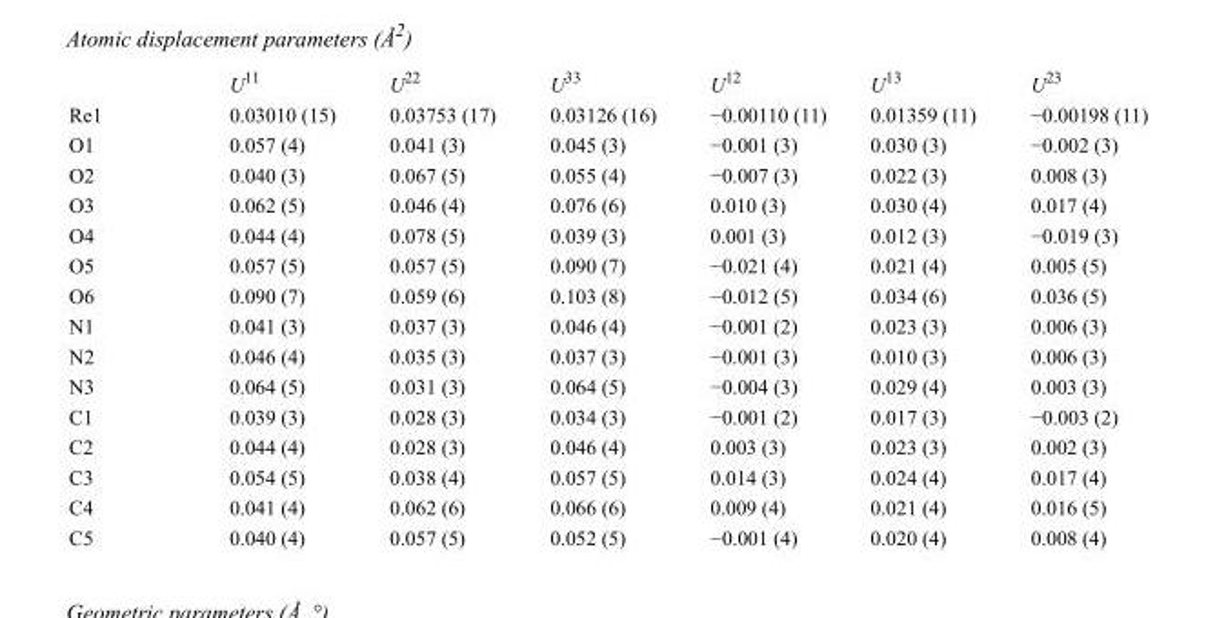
<table><thead><tr><td></td><td>U<sup>11</sup></td><td>U<sup>22</sup></td><td>U<sup>33</sup></td><td>U<sup>12</sup></td><td>U<sup>13</sup></td><td>U<sup>23</sup></td></tr></thead><tbody><tr><td>Re1</td><td>0.03010 (15)</td><td>0.03753 (17)</td><td>0.03126 (16)</td><td>−0.00110 (11)</td><td>0.01359 (11)</td><td>−0.00198 (11)</td></tr><tr><td>O1</td><td>0.057 (4)</td><td>0.041 (3)</td><td>0.045 (3)</td><td>−0.001 (3)</td><td>0.030 (3)</td><td>−0.002 (3)</td></tr><tr><td>O2</td><td>0.040 (3)</td><td>0.067 (5)</td><td>0.055 (4)</td><td>−0.007 (3)</td><td>0.022 (3)</td><td>0.008 (3)</td></tr><tr><td>O3</td><td>0.062 (5)</td><td>0.046 (4)</td><td>0.076 (6)</td><td>0.010 (3)</td><td>0.030 (4)</td><td>0.017 (4)</td></tr><tr><td>O4</td><td>0.044 (4)</td><td>0.078 (5)</td><td>0.039 (3)</td><td>0.001 (3)</td><td>0.012 (3)</td><td>−0.019 (3)</td></tr><tr><td>O5</td><td>0.057 (5)</td><td>0.057 (5)</td><td>0.090 (7)</td><td>−0.021 (4)</td><td>0.021 (4)</td><td>0.005 (5)</td></tr><tr><td>O6</td><td>0.090 (7)</td><td>0.059 (6)</td><td>0.103 (8)</td><td>−0.012 (5)</td><td>0.034 (6)</td><td>0.036 (5)</td></tr><tr><td>N1</td><td>0.041 (3)</td><td>0.037 (3)</td><td>0.046 (4)</td><td>−0.001 (2)</td><td>0.023 (3)</td><td>0.006 (3)</td></tr><tr><td>N2</td><td>0.046 (4)</td><td>0.035 (3)</td><td>0.037 (3)</td><td>−0.001 (3)</td><td>0.010 (3)</td><td>0.006 (3)</td></tr><tr><td>N3</td><td>0.064 (5)</td><td>0.031 (3)</td><td>0.064 (5)</td><td>−0.004 (3)</td><td>0.029 (4)</td><td>0.003 (3)</td></tr><tr><td>C1</td><td>0.039 (3)</td><td>0.028 (3)</td><td>0.034 (3)</td><td>−0.001 (2)</td><td>0.017 (3)</td><td>−0.003 (2)</td></tr><tr><td>C2</td><td>0.044 (4)</td><td>0.028 (3)</td><td>0.046 (4)</td><td>0.003 (3)</td><td>0.023 (3)</td><td>0.002 (3)</td></tr><tr><td>C3</td><td>0.054 (5)</td><td>0.038 (4)</td><td>0.057 (5)</td><td>0.014 (3)</td><td>0.024 (4)</td><td>0.017 (4)</td></tr><tr><td>C4</td><td>0.041 (4)</td><td>0.062 (6)</td><td>0.066 (6)</td><td>0.009 (4)</td><td>0.021 (4)</td><td>0.016 (5)</td></tr><tr><td>C5</td><td>0.040 (4)</td><td>0.057 (5)</td><td>0.052 (5)</td><td>−0.001 (4)</td><td>0.020 (4)</td><td>0.008 (4)</td></tr></tbody></table>